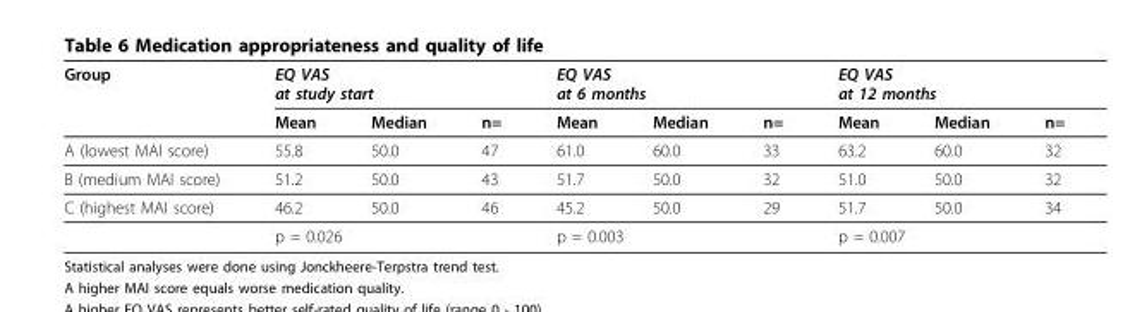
<table><thead><tr><td rowspan="2">Group</td><td colspan="3">EQ VAS at study start</td><td colspan="3">EQ VAS at 6 months</td><td colspan="3">EQ VAS at 12 months</td></tr><tr><td>Mean</td><td>Median</td><td>n=</td><td>Mean</td><td>Median</td><td>n=</td><td>Mean</td><td>Median</td><td>n=</td></tr></thead><tbody><tr><td>A (lowest MAI score)</td><td>55.8</td><td>50.0</td><td>47</td><td>61.0</td><td>60.0</td><td>33</td><td>63.2</td><td>60.0</td><td>32</td></tr><tr><td>B (medium MAI score)</td><td>51.2</td><td>50.0</td><td>43</td><td>51.7</td><td>50.0</td><td>32</td><td>51.0</td><td>50.0</td><td>32</td></tr><tr><td rowspan="2">C (highest MAI score)</td><td>46.2</td><td>50.0</td><td>46</td><td>45.2</td><td>50.0</td><td>29</td><td>51.7</td><td>50.0</td><td>34</td></tr><tr><td colspan="3">p = 0.026</td><td colspan="3">p = 0.003</td><td colspan="3">p = 0.007</td></tr></tbody></table>